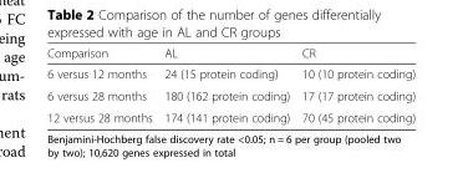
<table><thead><tr><td>Comparison</td><td>AL</td><td>CR</td></tr></thead><tbody><tr><td>6 versus 12 months</td><td>24 (15 protein coding)</td><td>10 (10 protein coding)</td></tr><tr><td>6 versus 28 months</td><td>180 (162 protein coding)</td><td>17 (17 protein coding)</td></tr><tr><td>12 versus 28 months</td><td>174 (141 protein coding)</td><td>70 (45 protein coding)</td></tr></tbody></table>